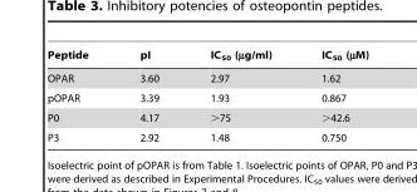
<table><thead><tr><td>Peptide</td><td>pI</td><td>IC<sub>50</sub> (µg/ml)</td><td>IC<sub>50</sub> (µM)</td></tr></thead><tbody><tr><td>OPAR</td><td>3.60</td><td>2.97</td><td>1.62</td></tr><tr><td>pOPAR</td><td>3.39</td><td>1.93</td><td>0.867</td></tr><tr><td>P0</td><td>4.17</td><td>&gt;75</td><td>&gt;42.6</td></tr><tr><td>P3</td><td>2.92</td><td>1.48</td><td>0.750</td></tr></tbody></table>